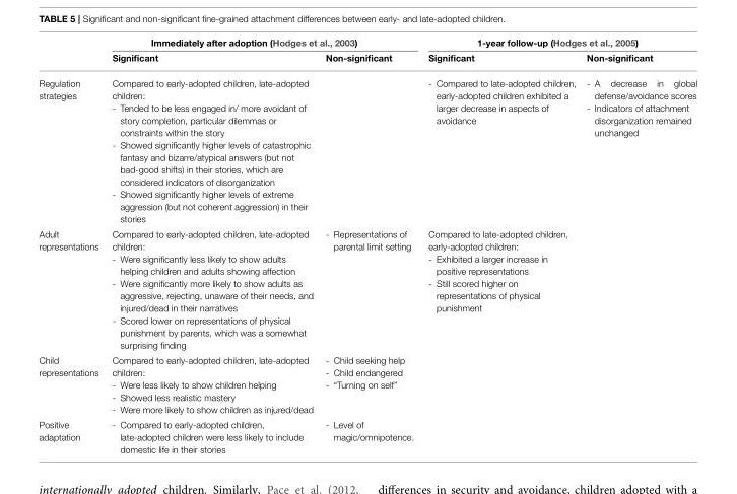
<table><thead><tr><td rowspan="2"></td><td colspan="2">Immediately after adoption (Hodges et al., 2003)</td><td colspan="2">1-year follow-up (Hodges et al., 2005)</td></tr><tr><td>Significant</td><td>Non-significant</td><td>Significant</td><td>Non-significant</td></tr></thead><tbody><tr><td>Regulation strategies</td><td>Compared to early-adopted children, late-adopted children: - Tended to be less engaged in/ more avoidant of story completion, particular dilemmas or constraints within the story - Showed significantly higher levels of catastrophic fantasy and bizarre/atypical answers (but not bad-good shifts) in their stories, which are considered indicators of disorganization - Showed significantly higher levels of extreme aggression (but not coherent aggression) in their stories</td><td></td><td>- Compared to late-adopted children, early-adopted children exhibited a larger decrease in aspects of avoidance</td><td>- A decrease in global defense/avoidance scores - Indicators of attachment disorganization remained unchanged</td></tr><tr><td>Adult representations</td><td>Compared to early-adopted children, late-adopted children: - Were significantly less likely to show adults helping children and adults showing affection - Were significantly more likely to show adults as aggressive, rejecting, unaware of their needs, and injured/dead in their narratives - Scored lower on representations of physical punishment by parents, which was a somewhat surprising finding</td><td>- Representations of parental limit setting</td><td>Compared to late-adopted children, early-adopted children: - Exhibited a larger increase in positive representations - Still scored higher on representations of physical punishment</td><td></td></tr><tr><td>Child representations</td><td>Compared to early-adopted children, late-adopted children: - Were less likely to show children helping - Showed less realistic mastery - Were more likely to show children as injured/dead</td><td>- Child seeking help - Child endangered - “Turning on self”</td><td></td><td></td></tr><tr><td>Positive adaptation</td><td>- Compared to early-adopted children, late-adopted children were less likely to include domestic life in their stories</td><td>- Level of magic/omnipotence.</td><td></td><td></td></tr></tbody></table>